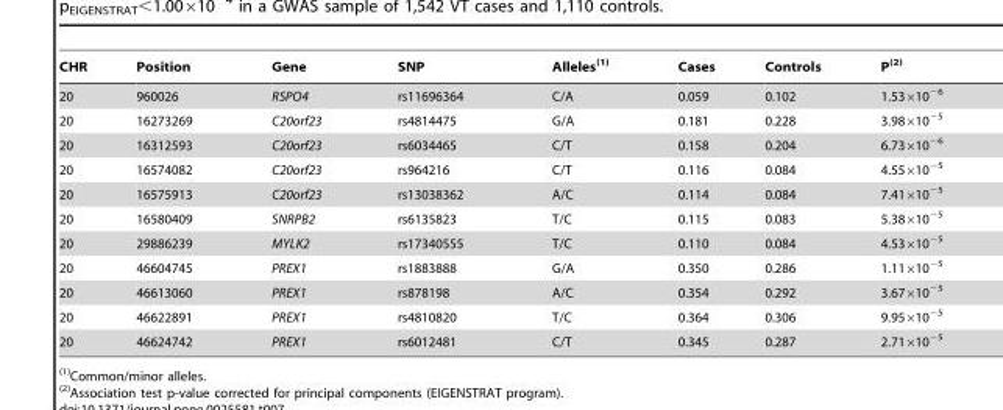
<table><thead><tr><td>CHR</td><td>Position</td><td>Gene</td><td>SNP</td><td>Alleles(1)</td><td>Cases</td><td>Controls</td><td>P(2)</td></tr></thead><tbody><tr><td>20</td><td>960026</td><td>RSPO4</td><td>rs11696364</td><td>C/A</td><td>0.059</td><td>0.102</td><td>1.53×10<sup>−6</sup></td></tr><tr><td>20</td><td>16273269</td><td>C20orf23</td><td>rs4814475</td><td>G/A</td><td>0.181</td><td>0.228</td><td>3.98×10<sup>−5</sup></td></tr><tr><td>20</td><td>16312593</td><td>C20orf23</td><td>rs6034465</td><td>C/T</td><td>0.158</td><td>0.204</td><td>6.73×10<sup>−6</sup></td></tr><tr><td>20</td><td>16574082</td><td>C20orf23</td><td>rs964216</td><td>C/T</td><td>0.116</td><td>0.084</td><td>4.55×10<sup>−5</sup></td></tr><tr><td>20</td><td>16575913</td><td>C20orf23</td><td>rs13038362</td><td>A/C</td><td>0.114</td><td>0.084</td><td>7.41×10<sup>−5</sup></td></tr><tr><td>20</td><td>16580409</td><td>SNRPB2</td><td>rs6135823</td><td>T/C</td><td>0.115</td><td>0.083</td><td>5.38×10<sup>−5</sup></td></tr><tr><td>20</td><td>29886239</td><td>MYLK2</td><td>rs17340555</td><td>T/C</td><td>0.110</td><td>0.084</td><td>4.53×10<sup>−5</sup></td></tr><tr><td>20</td><td>46604745</td><td>PREX1</td><td>rs1883888</td><td>G/A</td><td>0.350</td><td>0.286</td><td>1.11×10<sup>−5</sup></td></tr><tr><td>20</td><td>46613060</td><td>PREX1</td><td>rs878198</td><td>A/C</td><td>0.354</td><td>0.292</td><td>3.67×10<sup>−5</sup></td></tr><tr><td>20</td><td>46622891</td><td>PREX1</td><td>rs4810820</td><td>T/C</td><td>0.364</td><td>0.306</td><td>9.95×10<sup>−5</sup></td></tr><tr><td>20</td><td>46624742</td><td>PREX1</td><td>rs6012481</td><td>C/T</td><td>0.345</td><td>0.287</td><td>2.71×10<sup>−5</sup></td></tr></tbody></table>